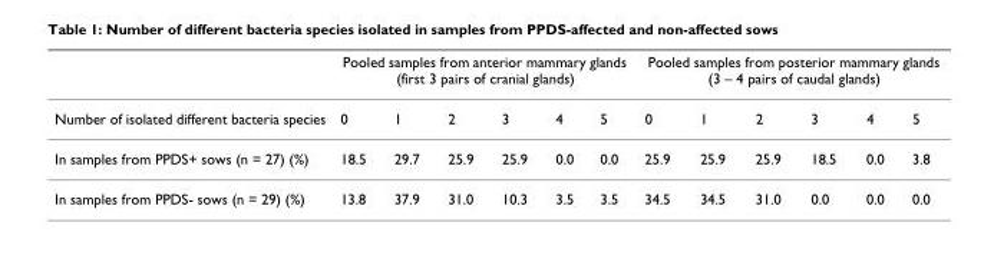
<table><thead><tr><td rowspan="2">Number of isolated different bacteria species</td><td colspan="6">Pooled samples from anterior mammary glands (first 3 pairs of cranial glands)</td><td colspan="6">Pooled samples from posterior mammary glands (3 – 4 pairs of caudal glands)</td></tr><tr><td>0</td><td>1</td><td>2</td><td>3</td><td>4</td><td>5</td><td>0</td><td>1</td><td>2</td><td>3</td><td>4</td><td>5</td></tr></thead><tbody><tr><td>In samples from PPDS+ sows (n = 27) (%)</td><td>18.5</td><td>29.7</td><td>25.9</td><td>25.9</td><td>0.0</td><td>0.0</td><td>25.9</td><td>25.9</td><td>25.9</td><td>18.5</td><td>0.0</td><td>3.8</td></tr><tr><td>In samples from PPDS- sows (n = 29) (%)</td><td>13.8</td><td>37.9</td><td>31.0</td><td>10.3</td><td>3.5</td><td>3.5</td><td>34.5</td><td>34.5</td><td>31.0</td><td>0.0</td><td>0.0</td><td>0.0</td></tr></tbody></table>